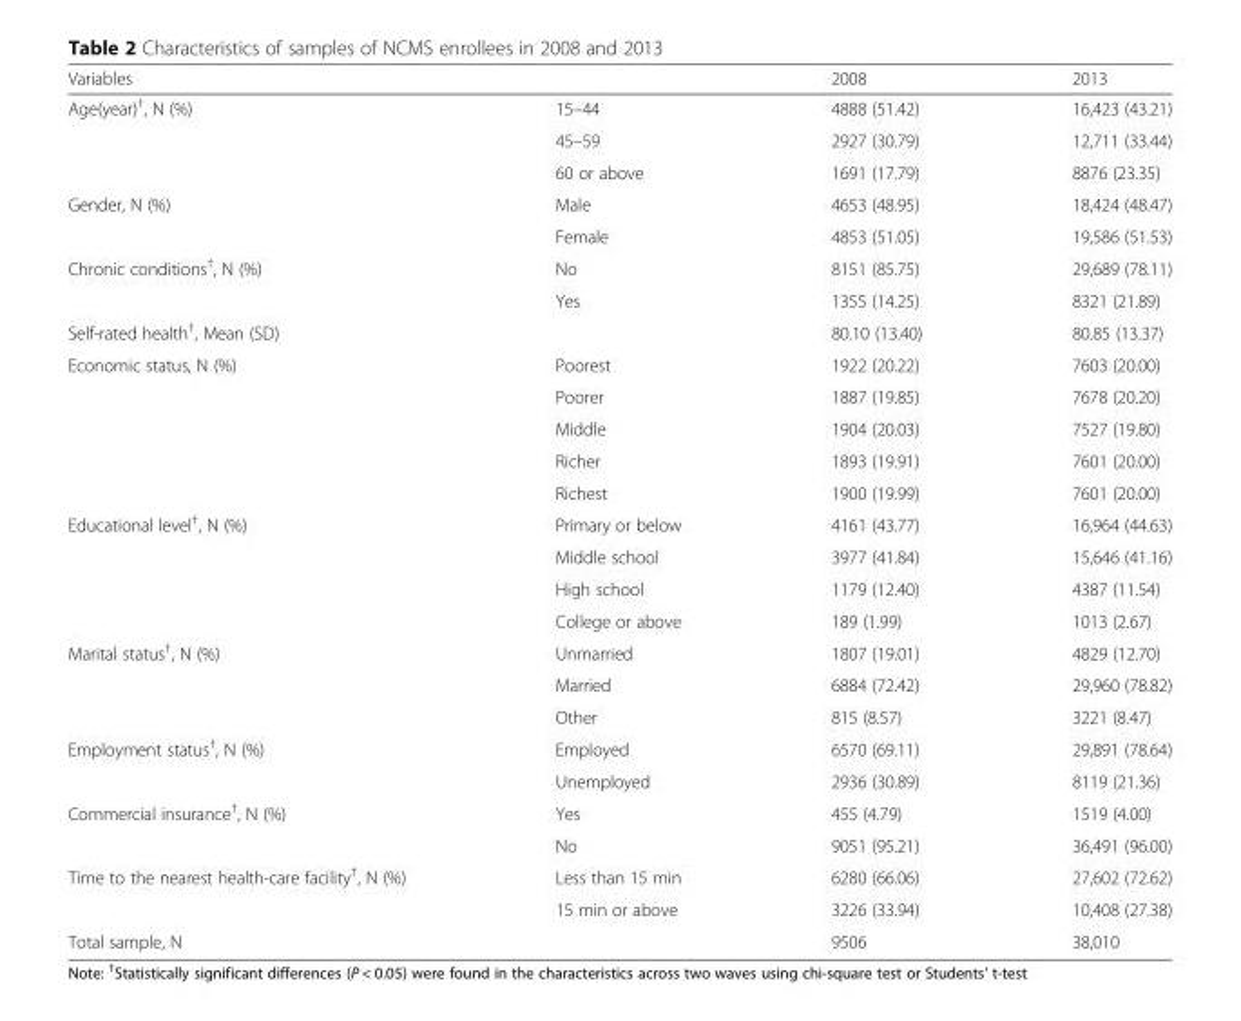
<table><thead><tr><td>Variables</td><td></td><td>2008</td><td>2013</td></tr></thead><tbody><tr><td rowspan="3">Age(year)<sup>†</sup>, N (%)</td><td>15–44</td><td>4888 (51.42)</td><td>16,423 (43.21)</td></tr><tr><td>45–59</td><td>2927 (30.79)</td><td>12,711 (33.44)</td></tr><tr><td>60 or above</td><td>1691 (17.79)</td><td>8876 (23.35)</td></tr><tr><td rowspan="2">Gender, N (%)</td><td>Male</td><td>4653 (48.95)</td><td>18,424 (48.47)</td></tr><tr><td>Female</td><td>4853 (51.05)</td><td>19,586 (51.53)</td></tr><tr><td rowspan="2">Chronic conditions<sup>†</sup>, N (%)</td><td>No</td><td>8151 (85.75)</td><td>29,689 (78.11)</td></tr><tr><td>Yes</td><td>1355 (14.25)</td><td>8321 (21.89)</td></tr><tr><td>Self-rated health<sup>†</sup>, Mean (SD)</td><td></td><td>80.10 (13.40)</td><td>80.85 (13.37)</td></tr><tr><td rowspan="5">Economic status, N (%)</td><td>Poorest</td><td>1922 (20.22)</td><td>7603 (20.00)</td></tr><tr><td>Poorer</td><td>1887 (19.85)</td><td>7678 (20.20)</td></tr><tr><td>Middle</td><td>1904 (20.03)</td><td>7527 (19.80)</td></tr><tr><td>Richer</td><td>1893 (19.91)</td><td>7601 (20.00)</td></tr><tr><td>Richest</td><td>1900 (19.99)</td><td>7601 (20.00)</td></tr><tr><td rowspan="4">Educational level<sup>†</sup>, N (%)</td><td>Primary or below</td><td>4161 (43.77)</td><td>16,964 (44.63)</td></tr><tr><td>Middle school</td><td>3977 (41.84)</td><td>15,646 (41.16)</td></tr><tr><td>High school</td><td>1179 (12.40)</td><td>4387 (11.54)</td></tr><tr><td>College or above</td><td>189 (1.99)</td><td>1013 (2.67)</td></tr><tr><td rowspan="3">Marital status<sup>†</sup>, N (%)</td><td>Unmarried</td><td>1807 (19.01)</td><td>4829 (12.70)</td></tr><tr><td>Married</td><td>6884 (72.42)</td><td>29,960 (78.82)</td></tr><tr><td>Other</td><td>815 (8.57)</td><td>3221 (8.47)</td></tr><tr><td rowspan="2">Employment status<sup>†</sup>, N (%)</td><td>Employed</td><td>6570 (69.11)</td><td>29,891 (78.64)</td></tr><tr><td>Unemployed</td><td>2936 (30.89)</td><td>8119 (21.36)</td></tr><tr><td rowspan="2">Commercial insurance<sup>†</sup>, N (%)</td><td>Yes</td><td>455 (4.79)</td><td>1519 (4.00)</td></tr><tr><td>No</td><td>9051 (95.21)</td><td>36,491 (96.00)</td></tr><tr><td rowspan="2">Time to the nearest health-care facility<sup>†</sup>, N (%)</td><td>Less than 15 min</td><td>6280 (66.06)</td><td>27,602 (72.62)</td></tr><tr><td>15 min or above</td><td>3226 (33.94)</td><td>10,408 (27.38)</td></tr><tr><td>Total sample, N</td><td></td><td>9506</td><td>38,010</td></tr></tbody></table>